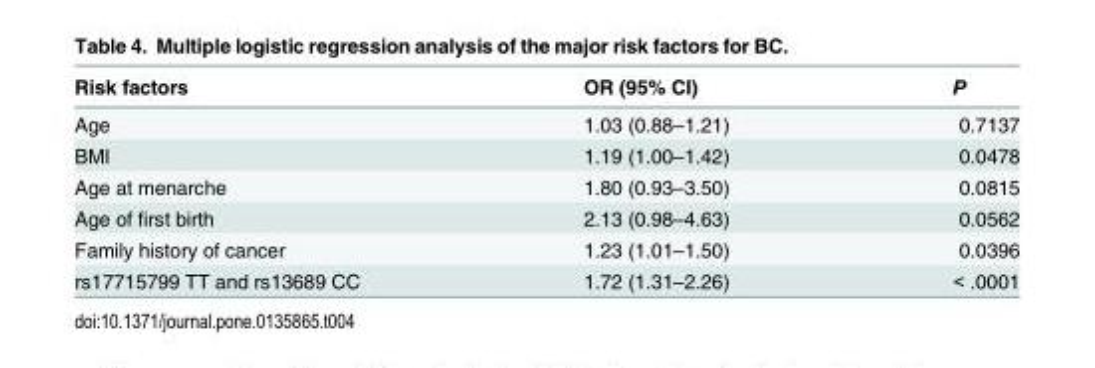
<table><thead><tr><td>Risk factors</td><td>OR (95% CI)</td><td>P</td></tr></thead><tbody><tr><td>Age</td><td>1.03 (0.88–1.21)</td><td>0.7137</td></tr><tr><td>BMI</td><td>1.19 (1.00–1.42)</td><td>0.0478</td></tr><tr><td>Age at menarche</td><td>1.80 (0.93–3.50)</td><td>0.0815</td></tr><tr><td>Age of first birth</td><td>2.13 (0.98–4.63)</td><td>0.0562</td></tr><tr><td>Family history of cancer</td><td>1.23 (1.01–1.50)</td><td>0.0396</td></tr><tr><td>rs17715799 TT and rs13689 CC</td><td>1.72 (1.31–2.26)</td><td>&lt; .0001</td></tr></tbody></table>